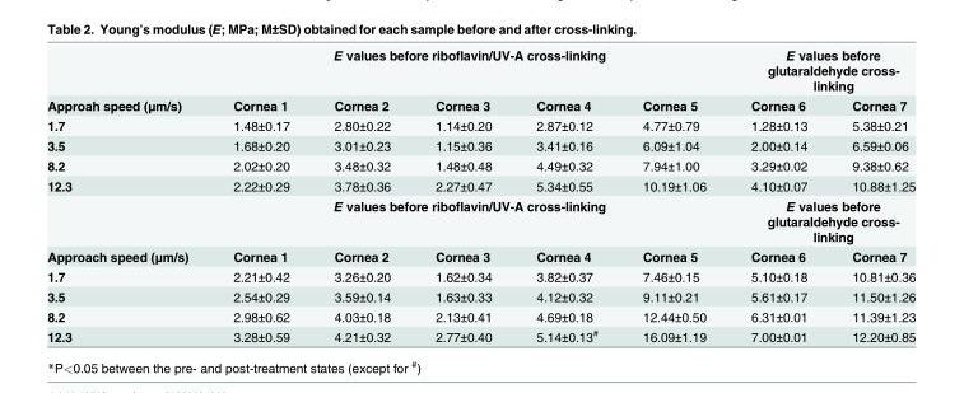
<table><thead><tr><td rowspan="2">Approah speed (μm/s)</td><td colspan="5">E values before riboflavin/UV-A cross-linking</td><td colspan="2">E values before glutaraldehyde cross- linking</td></tr><tr><td>Cornea 1</td><td>Cornea 2</td><td>Cornea 3</td><td>Cornea 4</td><td>Cornea 5</td><td>Cornea 6</td><td>Cornea 7</td></tr></thead><tbody><tr><td>1.7</td><td>1.48±0.17</td><td>2.80±0.22</td><td>1.14±0.20</td><td>2.87±0.12</td><td>4.77±0.79</td><td>1.28±0.13</td><td>5.38±0.21</td></tr><tr><td>3.5</td><td>1.68±0.20</td><td>3.01±0.23</td><td>1.15±0.36</td><td>3.41±0.16</td><td>6.09±1.04</td><td>2.00±0.14</td><td>6.59±0.06</td></tr><tr><td>8.2</td><td>2.02±0.20</td><td>3.48±0.32</td><td>1.48±0.48</td><td>4.49±0.32</td><td>7.94±1.00</td><td>3.29±0.02</td><td>9.38±0.62</td></tr><tr><td rowspan="2">12.3</td><td>2.22±0.29</td><td>3.78±0.36</td><td>2.27±0.47</td><td>5.34±0.55</td><td>10.19±1.06</td><td>4.10±0.07</td><td>10.88±1.25</td></tr><tr><td colspan="5">E values before riboflavin/UV-A cross-linking</td><td colspan="2">E values before glutaraldehyde cross- linking</td></tr><tr><td>Approach speed (μm/s)</td><td>Cornea 1</td><td>Cornea 2</td><td>Cornea 3</td><td>Cornea 4</td><td>Cornea 5</td><td>Cornea 6</td><td>Cornea 7</td></tr><tr><td>1.7</td><td>2.21±0.42</td><td>3.26±0.20</td><td>1.62±0.34</td><td>3.82±0.37</td><td>7.46±0.15</td><td>5.10±0.18</td><td>10.81±0.36</td></tr><tr><td>3.5</td><td>2.54±0.29</td><td>3.59±0.14</td><td>1.63±0.33</td><td>4.12±0.32</td><td>9.11±0.21</td><td>5.61±0.17</td><td>11.50±1.26</td></tr><tr><td>8.2</td><td>2.98±0.62</td><td>4.03±0.18</td><td>2.13±0.41</td><td>4.69±0.18</td><td>12.44±0.50</td><td>6.31±0.01</td><td>11.39±1.23</td></tr><tr><td>12.3</td><td>3.28±0.59</td><td>4.21±0.32</td><td>2.77±0.40</td><td>5.14±0.13<sup>#</sup></td><td>16.09±1.19</td><td>7.00±0.01</td><td>12.20±0.85</td></tr></tbody></table>